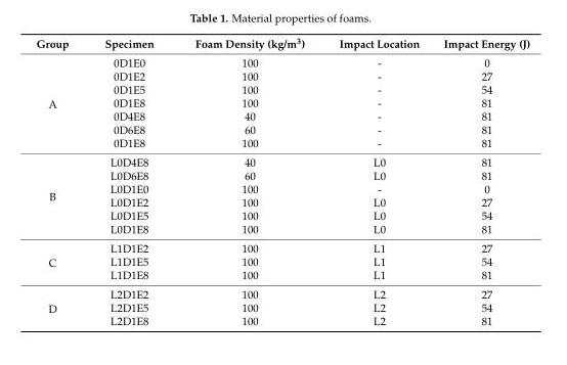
<table><thead><tr><td>Group</td><td>Specimen</td><td>Foam Density (kg/m<sup>3</sup>)</td><td>Impact Location</td><td>Impact Energy (J)</td></tr></thead><tbody><tr><td rowspan="7">A</td><td>0D1E0</td><td>100</td><td>-</td><td>0</td></tr><tr><td>0D1E2</td><td>100</td><td>-</td><td>27</td></tr><tr><td>0D1E5</td><td>100</td><td>-</td><td>54</td></tr><tr><td>0D1E8</td><td>100</td><td>-</td><td>81</td></tr><tr><td>0D4E8</td><td>40</td><td>-</td><td>81</td></tr><tr><td>0D6E8</td><td>60</td><td>-</td><td>81</td></tr><tr><td>0D1E8</td><td>100</td><td>-</td><td>81</td></tr><tr><td rowspan="6">B</td><td>L0D4E8</td><td>40</td><td>L0</td><td>81</td></tr><tr><td>L0D6E8</td><td>60</td><td>L0</td><td>81</td></tr><tr><td>L0D1E0</td><td>100</td><td>-</td><td>0</td></tr><tr><td>L0D1E2</td><td>100</td><td>L0</td><td>27</td></tr><tr><td>L0D1E5</td><td>100</td><td>L0</td><td>54</td></tr><tr><td>L0D1E8</td><td>100</td><td>L0</td><td>81</td></tr><tr><td rowspan="3">C</td><td>L1D1E2</td><td>100</td><td>L1</td><td>27</td></tr><tr><td>L1D1E5</td><td>100</td><td>L1</td><td>54</td></tr><tr><td>L1D1E8</td><td>100</td><td>L1</td><td>81</td></tr><tr><td rowspan="3">D</td><td>L2D1E2</td><td>100</td><td>L2</td><td>27</td></tr><tr><td>L2D1E5</td><td>100</td><td>L2</td><td>54</td></tr><tr><td>L2D1E8</td><td>100</td><td>L2</td><td>81</td></tr></tbody></table>